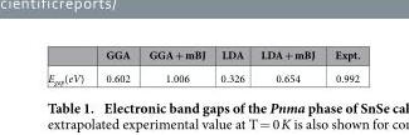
<table><thead><tr><td></td><td>GGA</td><td>GGA + mBJ</td><td>LDA</td><td>LDA + mBJ</td><td>Expt.</td></tr></thead><tbody><tr><td>E<sub>gap</sub>(eV)</td><td>0.602</td><td>1.006</td><td>0.326</td><td>0.654</td><td>0.992</td></tr></tbody></table>